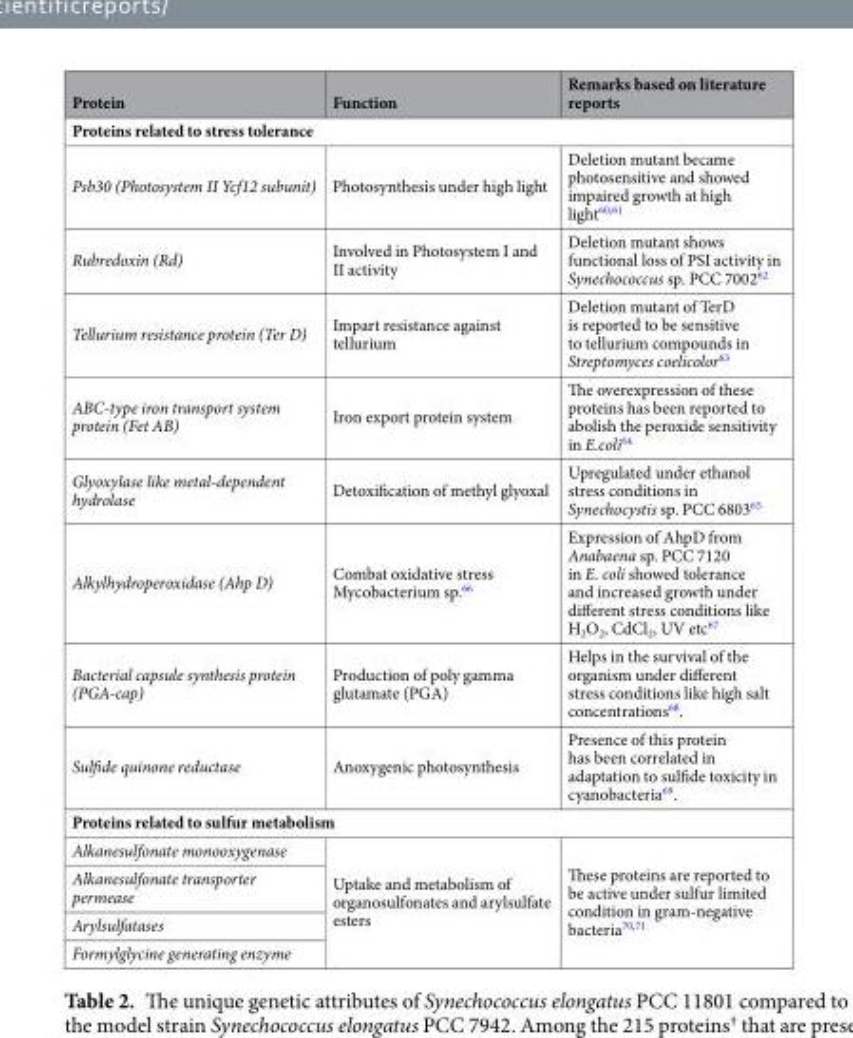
<table><thead><tr><td>Protein</td><td>Function</td><td>Remarks based on literature reports</td></tr></thead><tbody><tr><td colspan="3">Proteins related to stress tolerance</td></tr><tr><td>Psb30 (Photosystem II Ycf12 subunit)</td><td>Photosynthesis under high light</td><td>Deletion mutant became photosensitive and showed impaired growth at high light<sup>60,61</sup></td></tr><tr><td>Rubredoxin (Rd)</td><td>Involved in Photosystem I and II activity</td><td>Deletion mutant shows functional loss of PSI activity in Synechococcus sp. PCC 7002<sup>62</sup></td></tr><tr><td>Tellurium resistance protein (Ter D)</td><td>Impart resistance against tellurium</td><td>Deletion mutant of TerD is reported to be sensitive to tellurium compounds in Streptomyces coelicolor<sup>63</sup></td></tr><tr><td>ABC-type iron transport system protein (Fet AB)</td><td>Iron export protein system</td><td>The overexpression of these proteins has been reported to abolish the peroxide sensitivity in E.coli<sup>64</sup></td></tr><tr><td>Glyoxylase like metal-dependent hydrolase</td><td>Detoxification of methyl glyoxal</td><td>Upregulated under ethanol stress conditions in Synechocystis sp. PCC 6803<sup>65</sup></td></tr><tr><td>Alkylhydroperoxidase (Ahp D)</td><td>Combat oxidative stress Mycobacterium sp.<sup>66</sup></td><td>Expression of AhpD from Anabaena sp. PCC 7120 in E. coli showed tolerance and increased growth under different stress conditions like H<sub>2</sub>O<sub>2</sub>, CdCl<sub>2</sub>, UV etc<sup>67</sup></td></tr><tr><td>Bacterial capsule synthesis protein (PGA-cap)</td><td>Production of poly gamma glutamate (PGA)</td><td>Helps in the survival of the organism under different stress conditions like high salt concentrations<sup>68</sup>.</td></tr><tr><td>Sulfide quinone reductase</td><td>Anoxygenic photosynthesis</td><td>Presence of this protein has been correlated in adaptation to sulfide toxicity in cyanobacteria<sup>69</sup>.</td></tr><tr><td colspan="3">Proteins related to sulfur metabolism</td></tr><tr><td>Alkanesulfonate monooxygenase</td><td rowspan="4">Uptake and metabolism of organosulfonates and arylsulfate esters</td><td rowspan="4">These proteins are reported to be active under sulfur limited condition in gram-negative bacteria<sup>70,71</sup></td></tr><tr><td>Alkanesulfonate transporter permease</td></tr><tr><td>Arylsulfatases</td></tr><tr><td>Formylglycine generating enzyme</td></tr></tbody></table>